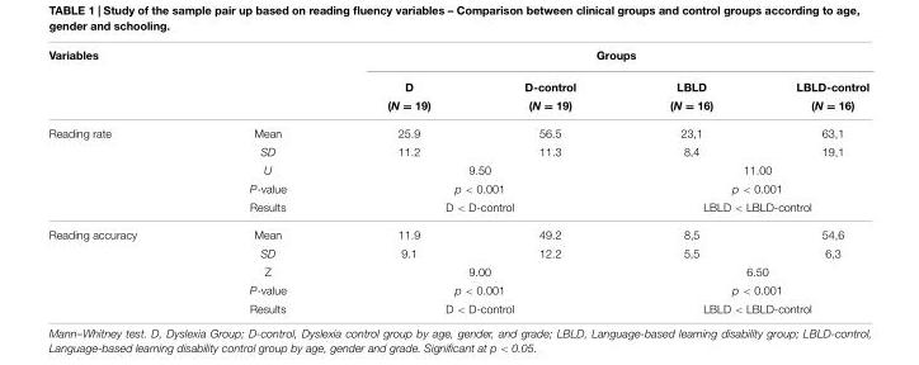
<table><thead><tr><td rowspan="3">Variables</td><td rowspan="3"></td><td colspan="4">Groups</td></tr><tr><td rowspan="2">D (N = 19)</td><td rowspan="2">D-control (N = 19)</td><td rowspan="2">LBLD (N = 16)</td><td rowspan="2">LBLD-control (N = 16)</td></tr><tr></tr></thead><tbody><tr><td rowspan="5">Reading rate</td><td>Mean</td><td>25.9</td><td>56.5</td><td>23,1</td><td>63,1</td></tr><tr><td>SD</td><td>11.2</td><td>11.3</td><td>8,4</td><td>19,1</td></tr><tr><td>U</td><td colspan="2">9.50</td><td colspan="2">11.00</td></tr><tr><td>P-value</td><td colspan="2">p &lt; 0.001</td><td colspan="2">p &lt; 0.001</td></tr><tr><td>Results</td><td colspan="2">D &lt; D-control</td><td colspan="2">LBLD &lt; LBLD-control</td></tr><tr><td rowspan="5">Reading accuracy</td><td>Mean</td><td>11.9</td><td>49.2</td><td>8,5</td><td>54,6</td></tr><tr><td>SD</td><td>9.1</td><td>12.2</td><td>5,5</td><td>6,3</td></tr><tr><td>Z</td><td colspan="2">9.00</td><td colspan="2">6.50</td></tr><tr><td>P-value</td><td colspan="2">p &lt; 0.001</td><td colspan="2">p &lt; 0.001</td></tr><tr><td>Results</td><td colspan="2">D &lt; D-control</td><td colspan="2">LBLD &lt; LBLD-control</td></tr></tbody></table>